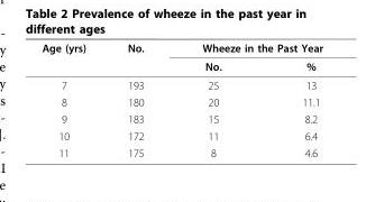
<table><thead><tr><td rowspan="2">Age (yrs)</td><td rowspan="2">No.</td><td colspan="2">Wheeze in the Past Year</td></tr><tr><td>No.</td><td>%</td></tr></thead><tbody><tr><td>7</td><td>193</td><td>25</td><td>13</td></tr><tr><td>8</td><td>180</td><td>20</td><td>11.1</td></tr><tr><td>9</td><td>183</td><td>15</td><td>8.2</td></tr><tr><td>10</td><td>172</td><td>11</td><td>6.4</td></tr><tr><td>11</td><td>175</td><td>8</td><td>4.6</td></tr></tbody></table>